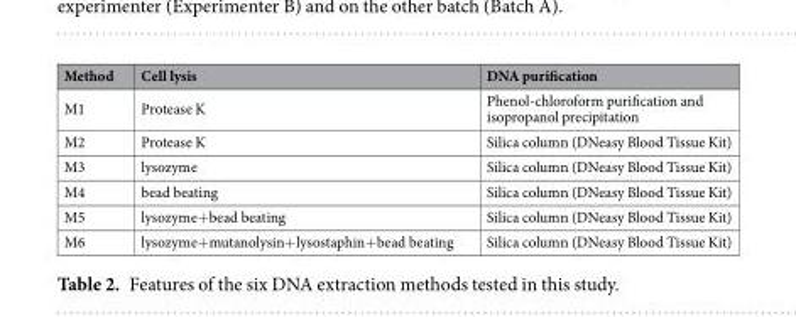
<table><thead><tr><td>Method</td><td>Cell lysis</td><td>DNA purification</td></tr></thead><tbody><tr><td>M1</td><td>Protease K</td><td>Phenol-chloroform purification and isopropanol precipitation</td></tr><tr><td>M2</td><td>Protease K</td><td>Silica column (DNeasy Blood Tissue Kit)</td></tr><tr><td>M3</td><td>lysozyme</td><td>Silica column (DNeasy Blood Tissue Kit)</td></tr><tr><td>M4</td><td>bead beating</td><td>Silica column (DNeasy Blood Tissue Kit)</td></tr><tr><td>M5</td><td>lysozyme+bead beating</td><td>Silica column (DNeasy Blood Tissue Kit)</td></tr><tr><td>M6</td><td>lysozyme+mutanolysin+lysostaphin+bead beating</td><td>Silica column (DNeasy Blood Tissue Kit)</td></tr></tbody></table>